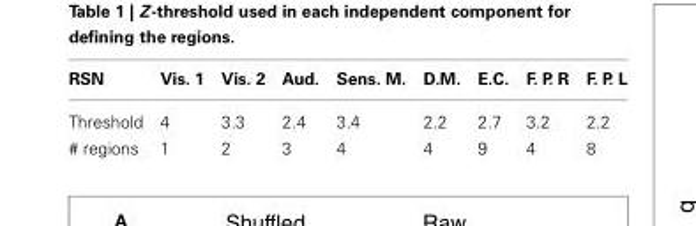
<table><thead><tr><td>RSN</td><td>Vis. 1</td><td>Vis. 2</td><td>Aud.</td><td>Sens. M.</td><td>D.M.</td><td>E.C.</td><td>F. P. R</td><td>F. P. L</td></tr></thead><tbody><tr><td>Threshold</td><td>4</td><td>3.3</td><td>2.4</td><td>3.4</td><td>2.2</td><td>2.7</td><td>3.2</td><td>2.2</td></tr><tr><td># regions</td><td>1</td><td>2</td><td>3</td><td>4</td><td>4</td><td>9</td><td>4</td><td>8</td></tr></tbody></table>